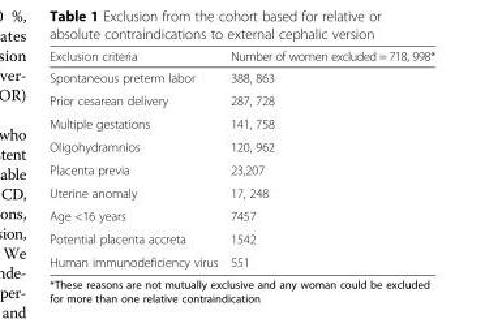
<table><thead><tr><td>Exclusion criteria</td><td>Number of women excluded = 718, 998*</td></tr></thead><tbody><tr><td>Spontaneous preterm labor</td><td>388, 863</td></tr><tr><td>Prior cesarean delivery</td><td>287, 728</td></tr><tr><td>Multiple gestations</td><td>141, 758</td></tr><tr><td>Oligohydramnios</td><td>120, 962</td></tr><tr><td>Placenta previa</td><td>23,207</td></tr><tr><td>Uterine anomaly</td><td>17, 248</td></tr><tr><td>Age &lt;16 years</td><td>7457</td></tr><tr><td>Potential placenta accreta</td><td>1542</td></tr><tr><td>Human immunodeficiency virus</td><td>551</td></tr></tbody></table>